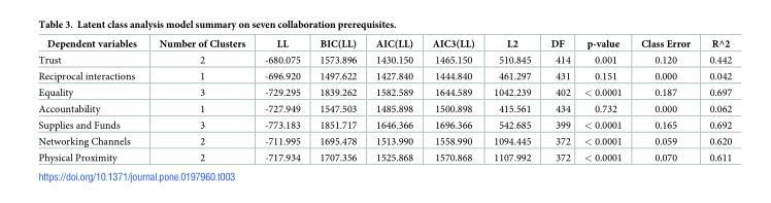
<table><thead><tr><td>Dependent variables</td><td>Number of Clusters</td><td>LL</td><td>BIC(LL)</td><td>AIC(LL)</td><td>AIC3(LL)</td><td>L2</td><td>DF</td><td>p-value</td><td>Class Error</td><td>R^2</td></tr></thead><tbody><tr><td>Trust</td><td>2</td><td>-680.075</td><td>1573.896</td><td>1430.150</td><td>1465.150</td><td>510.845</td><td>414</td><td>0.001</td><td>0.120</td><td>0.442</td></tr><tr><td>Reciprocal interactions</td><td>1</td><td>-696.920</td><td>1497.622</td><td>1427.840</td><td>1444.840</td><td>461.297</td><td>431</td><td>0.151</td><td>0.000</td><td>0.042</td></tr><tr><td>Equality</td><td>3</td><td>-729.295</td><td>1839.262</td><td>1582.589</td><td>1644.589</td><td>1042.239</td><td>402</td><td>&lt; 0.0001</td><td>0.187</td><td>0.697</td></tr><tr><td>Accountability</td><td>1</td><td>-727.949</td><td>1547.503</td><td>1485.898</td><td>1500.898</td><td>415.561</td><td>434</td><td>0.732</td><td>0.000</td><td>0.062</td></tr><tr><td>Supplies and Funds</td><td>3</td><td>-773.183</td><td>1851.717</td><td>1646.366</td><td>1696.366</td><td>542.685</td><td>399</td><td>&lt; 0.0001</td><td>0.165</td><td>0.692</td></tr><tr><td>Networking Channels</td><td>2</td><td>-711.995</td><td>1695.478</td><td>1513.990</td><td>1558.990</td><td>1094.445</td><td>372</td><td>&lt; 0.0001</td><td>0.059</td><td>0.620</td></tr><tr><td>Physical Proximity</td><td>2</td><td>-717.934</td><td>1707.356</td><td>1525.868</td><td>1570.868</td><td>1107.992</td><td>372</td><td>&lt; 0.0001</td><td>0.070</td><td>0.611</td></tr></tbody></table>